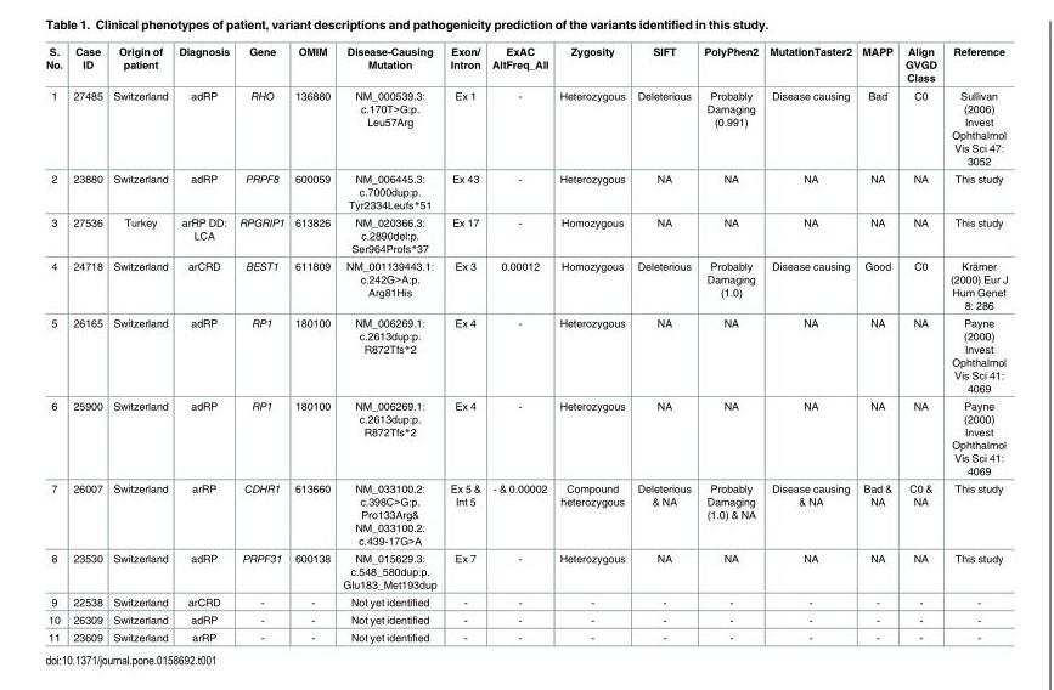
<table><thead><tr><td>S. No.</td><td>Case ID</td><td>Origin of patient</td><td>Diagnosis</td><td>Gene</td><td>OMIM</td><td>Disease-Causing Mutation</td><td>Exon/ Intron</td><td>ExAC AltFreq_All</td><td>Zygosity</td><td>SIFT</td><td>PolyPhen2</td><td>MutationTaster2</td><td>MAPP</td><td>Align GVGD Class</td><td>Reference</td></tr></thead><tbody><tr><td>1</td><td>27485</td><td>Switzerland</td><td>adRP</td><td>RHO</td><td>136880</td><td>NM_000539.3: c.170T&gt;G:p. Leu57Arg</td><td>Ex 1</td><td>-</td><td>Heterozygous</td><td>Deleterious</td><td>Probably Damaging (0.991)</td><td>Disease causing</td><td>Bad</td><td>C0</td><td>Sullivan (2006) Invest Ophthalmol Vis Sci 47: 3052</td></tr><tr><td>2</td><td>23880</td><td>Switzerland</td><td>adRP</td><td>PRPF8</td><td>600059</td><td>NM_006445.3: c.7000dup:p. Tyr2334Leufs*51</td><td>Ex 43</td><td>-</td><td>Heterozygous</td><td>NA</td><td>NA</td><td>NA</td><td>NA</td><td>NA</td><td>This study</td></tr><tr><td>3</td><td>27536</td><td>Turkey</td><td>arRP DD: LCA</td><td>RPGRIP1</td><td>613826</td><td>NM_020366.3: c.2890del:p. Ser964Profs*37</td><td>Ex 17</td><td>-</td><td>Homozygous</td><td>NA</td><td>NA</td><td>NA</td><td>NA</td><td>NA</td><td>This study</td></tr><tr><td>4</td><td>24718</td><td>Switzerland</td><td>arCRD</td><td>BEST1</td><td>611809</td><td>NM_001139443.1: c.242G&gt;A:p. Arg81His</td><td>Ex 3</td><td>0.00012</td><td>Homozygous</td><td>Deleterious</td><td>Probably Damaging (1.0)</td><td>Disease causing</td><td>Good</td><td>C0</td><td>Krämer (2000) Eur J Hum Genet 8: 286</td></tr><tr><td>5</td><td>26165</td><td>Switzerland</td><td>adRP</td><td>RP1</td><td>180100</td><td>NM_006269.1: c.2613dup:p. R872Tfs*2</td><td>Ex 4</td><td>-</td><td>Heterozygous</td><td>NA</td><td>NA</td><td>NA</td><td>NA</td><td>NA</td><td>Payne (2000) Invest Ophthalmol Vis Sci 41: 4069</td></tr><tr><td>6</td><td>25900</td><td>Switzerland</td><td>adRP</td><td>RP1</td><td>180100</td><td>NM_006269.1: c.2613dup:p. R872Tfs*2</td><td>Ex 4</td><td>-</td><td>Heterozygous</td><td>NA</td><td>NA</td><td>NA</td><td>NA</td><td>NA</td><td>Payne (2000) Invest Ophthalmol Vis Sci 41: 4069</td></tr><tr><td>7</td><td>26007</td><td>Switzerland</td><td>arRP</td><td>CDHR1</td><td>613660</td><td>NM_033100.2: c.398C&gt;G:p. Pro133Arg&amp; NM_033100.2: c.439-17G&gt;A</td><td>Ex 5 &amp; Int 5</td><td>- &amp; 0.00002</td><td>Compound heterozygous</td><td>Deleterious &amp; NA</td><td>Probably Damaging (1.0) &amp; NA</td><td>Disease causing &amp; NA</td><td>Bad &amp; NA</td><td>C0 &amp; NA</td><td>This study</td></tr><tr><td>8</td><td>23530</td><td>Switzerland</td><td>adRP</td><td>PRPF31</td><td>600138</td><td>NM_015629.3: c.548_580dup:p. Glu183_Met193dup</td><td>Ex 7</td><td>-</td><td>Heterozygous</td><td>NA</td><td>NA</td><td>NA</td><td>NA</td><td>NA</td><td>This study</td></tr><tr><td>9</td><td>22538</td><td>Switzerland</td><td>arCRD</td><td>-</td><td>-</td><td>Not yet identified</td><td>-</td><td>-</td><td>-</td><td>-</td><td>-</td><td>-</td><td>-</td><td>-</td><td>-</td></tr><tr><td>10</td><td>26309</td><td>Switzerland</td><td>adRP</td><td>-</td><td>-</td><td>Not yet identified</td><td>-</td><td>-</td><td>-</td><td>-</td><td>-</td><td>-</td><td>-</td><td>-</td><td>-</td></tr><tr><td>11</td><td>23609</td><td>Switzerland</td><td>arRP</td><td>-</td><td>-</td><td>Not yet identified</td><td>-</td><td>-</td><td>-</td><td>-</td><td>-</td><td>-</td><td>-</td><td>-</td><td>-</td></tr></tbody></table>